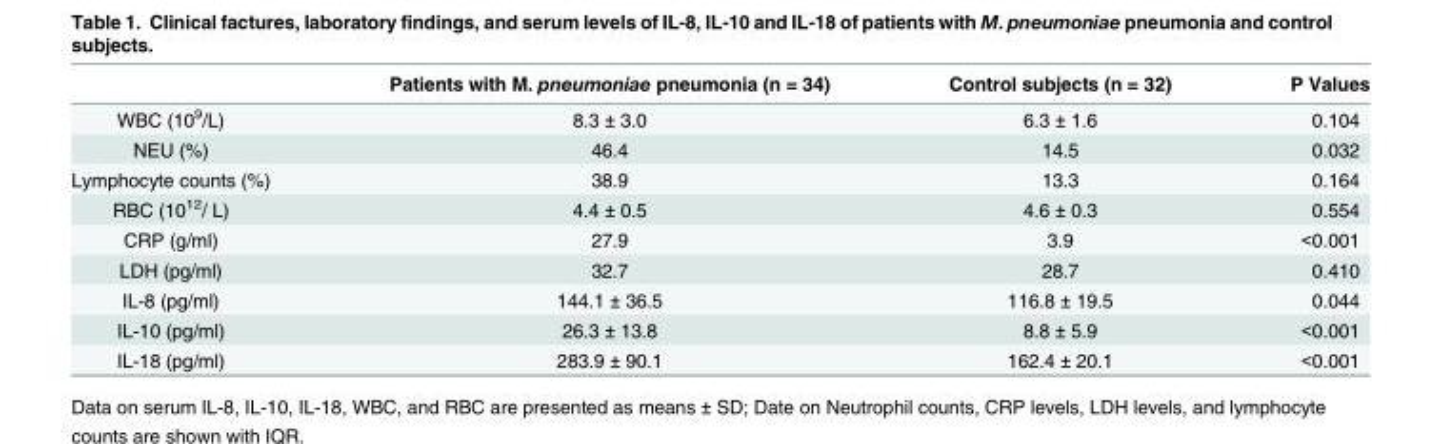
<table><thead><tr><td></td><td>Patients with M. pneumoniae pneumonia (n = 34)</td><td>Control subjects (n = 32)</td><td>P Values</td></tr></thead><tbody><tr><td>WBC (10<sup>9</sup>/L)</td><td>8.3 ± 3.0</td><td>6.3 ± 1.6</td><td>0.104</td></tr><tr><td>NEU (%)</td><td>46.4</td><td>14.5</td><td>0.032</td></tr><tr><td>Lymphocyte counts (%)</td><td>38.9</td><td>13.3</td><td>0.164</td></tr><tr><td>RBC (10<sup>12</sup>/ L)</td><td>4.4 ± 0.5</td><td>4.6 ± 0.3</td><td>0.554</td></tr><tr><td>CRP (g/ml)</td><td>27.9</td><td>3.9</td><td>&lt;0.001</td></tr><tr><td>LDH (pg/ml)</td><td>32.7</td><td>28.7</td><td>0.410</td></tr><tr><td>IL-8 (pg/ml)</td><td>144.1 ± 36.5</td><td>116.8 ± 19.5</td><td>0.044</td></tr><tr><td>IL-10 (pg/ml)</td><td>26.3 ± 13.8</td><td>8.8 ± 5.9</td><td>&lt;0.001</td></tr><tr><td>IL-18 (pg/ml)</td><td>283.9 ± 90.1</td><td>162.4 ± 20.1</td><td>&lt;0.001</td></tr></tbody></table>